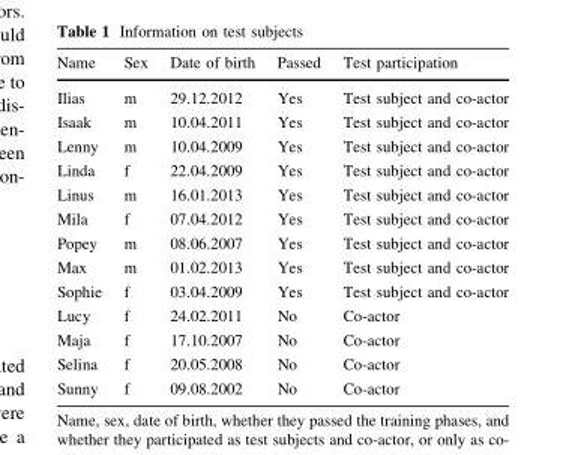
<table><thead><tr><td>Name</td><td>Sex</td><td>Date of birth</td><td>Passed</td><td>Test participation</td></tr></thead><tbody><tr><td>Ilias</td><td>m</td><td>29.12.2012</td><td>Yes</td><td>Test subject and co-actor</td></tr><tr><td>Isaak</td><td>m</td><td>10.04.2011</td><td>Yes</td><td>Test subject and co-actor</td></tr><tr><td>Lenny</td><td>m</td><td>10.04.2009</td><td>Yes</td><td>Test subject and co-actor</td></tr><tr><td>Linda</td><td>f</td><td>22.04.2009</td><td>Yes</td><td>Test subject and co-actor</td></tr><tr><td>Linus</td><td>m</td><td>16.01.2013</td><td>Yes</td><td>Test subject and co-actor</td></tr><tr><td>Mila</td><td>f</td><td>07.04.2012</td><td>Yes</td><td>Test subject and co-actor</td></tr><tr><td>Popey</td><td>m</td><td>08.06.2007</td><td>Yes</td><td>Test subject and co-actor</td></tr><tr><td>Max</td><td>m</td><td>01.02.2013</td><td>Yes</td><td>Test subject and co-actor</td></tr><tr><td>Sophie</td><td>f</td><td>03.04.2009</td><td>Yes</td><td>Test subject and co-actor</td></tr><tr><td>Lucy</td><td>f</td><td>24.02.2011</td><td>No</td><td>Co-actor</td></tr><tr><td>Maja</td><td>f</td><td>17.10.2007</td><td>No</td><td>Co-actor</td></tr><tr><td>Selina</td><td>f</td><td>20.05.2008</td><td>No</td><td>Co-actor</td></tr><tr><td>Sunny</td><td>f</td><td>09.08.2002</td><td>No</td><td>Co-actor</td></tr></tbody></table>